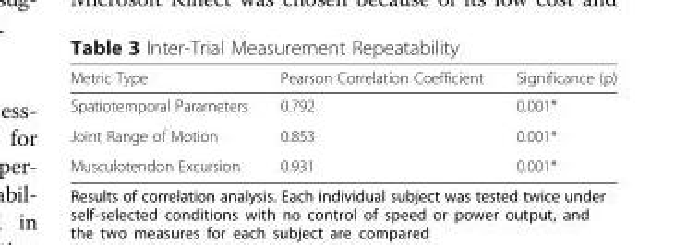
<table><thead><tr><td>Metric Type</td><td>Pearson Correlation Coefficient</td><td>Significance (p)</td></tr></thead><tbody><tr><td>Spatiotemporal Parameters</td><td>0.792</td><td>0.001*</td></tr><tr><td>Joint Range of Motion</td><td>0.853</td><td>0.001*</td></tr><tr><td>Musculotendon Excursion</td><td>0.931</td><td>0.001*</td></tr></tbody></table>